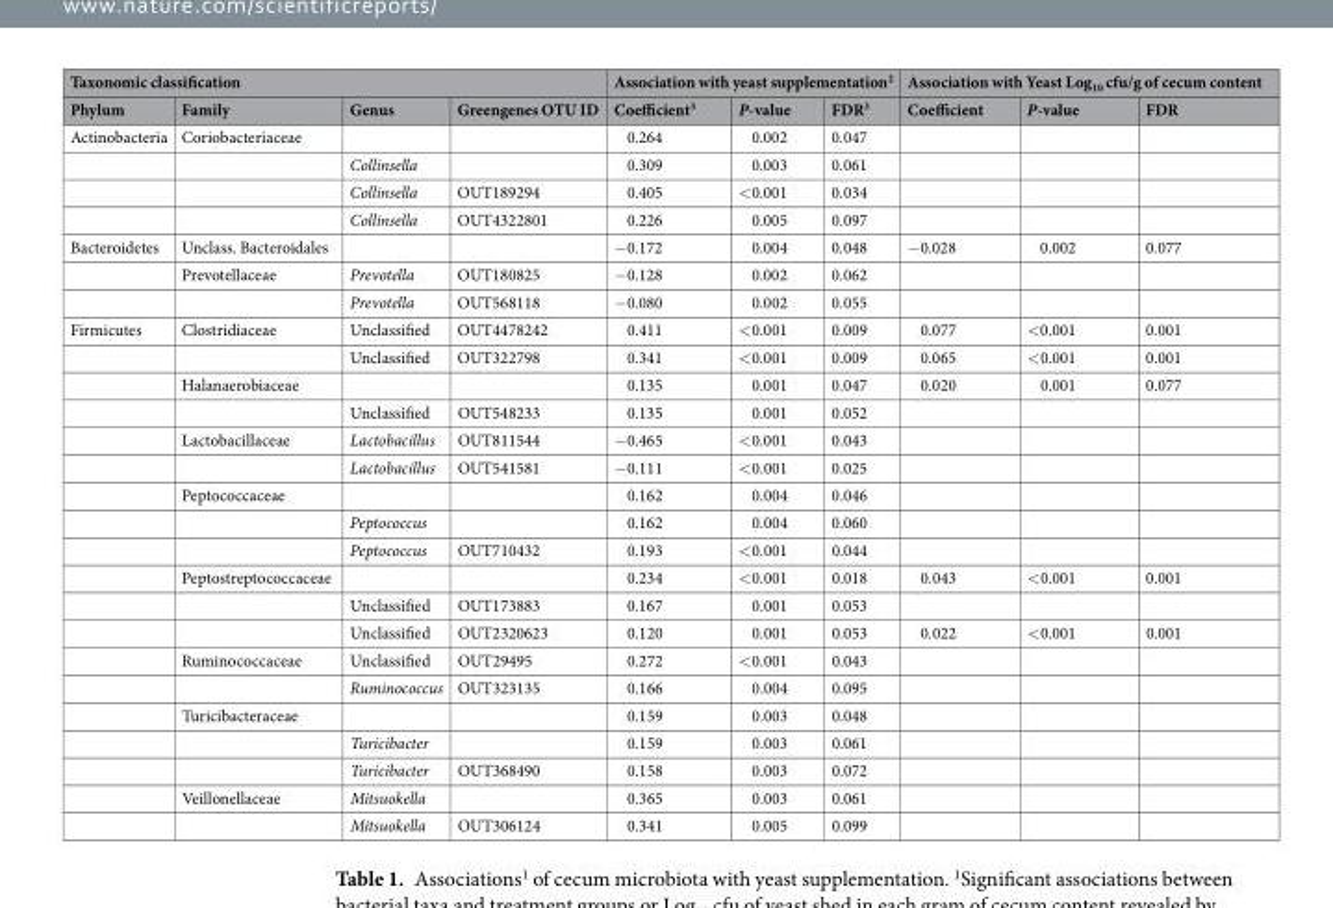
<table><thead><tr><td colspan="4">Taxonomic classification</td><td colspan="3">Association with yeast supplementation<sup>2</sup></td><td colspan="3">Association with Yeast Log<sub>10</sub> cfu/g of cecum content</td></tr><tr><td>Phylum</td><td>Family</td><td>Genus</td><td>Greengenes OTU ID</td><td>Coefficient<sup>3</sup></td><td>P-value</td><td>FDR<sup>3</sup></td><td>Coefficient</td><td>P-value</td><td>FDR</td></tr></thead><tbody><tr><td rowspan="4">Actinobacteria</td><td>Coriobacteriaceae</td><td></td><td></td><td>0.264</td><td>0.002</td><td>0.047</td><td></td><td></td><td></td></tr><tr><td></td><td>Collinsella</td><td></td><td>0.309</td><td>0.003</td><td>0.061</td><td></td><td></td><td></td></tr><tr><td></td><td>Collinsella</td><td>OUT189294</td><td>0.405</td><td>&lt;0.001</td><td>0.034</td><td></td><td></td><td></td></tr><tr><td></td><td>Collinsella</td><td>OUT4322801</td><td>0.226</td><td>0.005</td><td>0.097</td><td></td><td></td><td></td></tr><tr><td rowspan="3">Bacteroidetes</td><td>Unclass. Bacteroidales</td><td></td><td></td><td>−0.172</td><td>0.004</td><td>0.048</td><td>−0.028</td><td>0.002</td><td>0.077</td></tr><tr><td>Prevotellaceae</td><td>Prevotella</td><td>OUT180825</td><td>−0.128</td><td>0.002</td><td>0.062</td><td></td><td></td><td></td></tr><tr><td></td><td>Prevotella</td><td>OUT568118</td><td>−0.080</td><td>0.002</td><td>0.055</td><td></td><td></td><td></td></tr><tr><td rowspan="19">Firmicutes</td><td>Clostridiaceae</td><td>Unclassified</td><td>OUT4478242</td><td>0.411</td><td>&lt;0.001</td><td>0.009</td><td>0.077</td><td>&lt;0.001</td><td>0.001</td></tr><tr><td></td><td>Unclassified</td><td>OUT322798</td><td>0.341</td><td>&lt;0.001</td><td>0.009</td><td>0.065</td><td>&lt;0.001</td><td>0.001</td></tr><tr><td>Halanaerobiaceae</td><td></td><td></td><td>0.135</td><td>0.001</td><td>0.047</td><td>0.020</td><td>0.001</td><td>0.077</td></tr><tr><td></td><td>Unclassified</td><td>OUT548233</td><td>0.135</td><td>0.001</td><td>0.052</td><td></td><td></td><td></td></tr><tr><td>Lactobacillaceae</td><td>Lactobacillus</td><td>OUT811544</td><td>−0.465</td><td>&lt;0.001</td><td>0.043</td><td></td><td></td><td></td></tr><tr><td></td><td>Lactobacillus</td><td>OUT541581</td><td>−0.111</td><td>&lt;0.001</td><td>0.025</td><td></td><td></td><td></td></tr><tr><td>Peptococcaceae</td><td></td><td></td><td>0.162</td><td>0.004</td><td>0.046</td><td></td><td></td><td></td></tr><tr><td></td><td>Peptococcus</td><td></td><td>0.162</td><td>0.004</td><td>0.060</td><td></td><td></td><td></td></tr><tr><td></td><td>Peptococcus</td><td>OUT710432</td><td>0.193</td><td>&lt;0.001</td><td>0.044</td><td></td><td></td><td></td></tr><tr><td>Peptostreptococcaceae</td><td></td><td></td><td>0.234</td><td>&lt;0.001</td><td>0.018</td><td>0.043</td><td>&lt;0.001</td><td>0.001</td></tr><tr><td></td><td>Unclassified</td><td>OUT173883</td><td>0.167</td><td>0.001</td><td>0.053</td><td></td><td></td><td></td></tr><tr><td></td><td>Unclassified</td><td>OUT2320623</td><td>0.120</td><td>0.001</td><td>0.053</td><td>0.022</td><td>&lt;0.001</td><td>0.001</td></tr><tr><td>Ruminococcaceae</td><td>Unclassified</td><td>OUT29495</td><td>0.272</td><td>&lt;0.001</td><td>0.043</td><td></td><td></td><td></td></tr><tr><td></td><td>Ruminococcus</td><td>OUT323135</td><td>0.166</td><td>0.004</td><td>0.095</td><td></td><td></td><td></td></tr><tr><td>Turicibacteraceae</td><td></td><td></td><td>0.159</td><td>0.003</td><td>0.048</td><td></td><td></td><td></td></tr><tr><td></td><td>Turicibacter</td><td></td><td>0.159</td><td>0.003</td><td>0.061</td><td></td><td></td><td></td></tr><tr><td></td><td>Turicibacter</td><td>OUT368490</td><td>0.158</td><td>0.003</td><td>0.072</td><td></td><td></td><td></td></tr><tr><td>Veillonellaceae</td><td>Mitsuokella</td><td></td><td>0.365</td><td>0.003</td><td>0.061</td><td></td><td></td><td></td></tr><tr><td></td><td>Mitsuokella</td><td>OUT306124</td><td>0.341</td><td>0.005</td><td>0.099</td><td></td><td></td><td></td></tr></tbody></table>